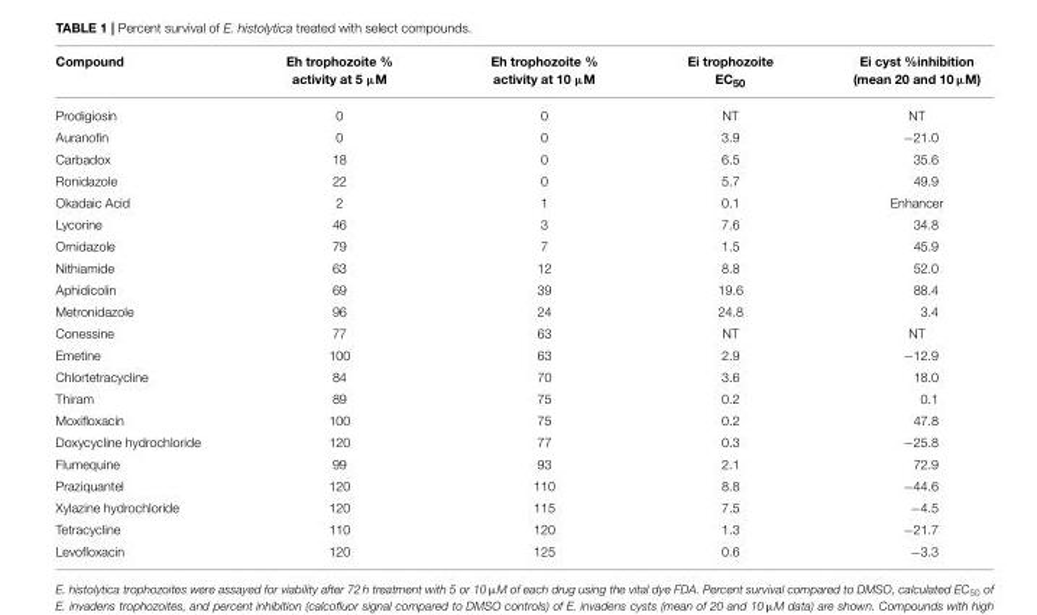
<table><thead><tr><td>Compound</td><td>Eh trophozoite % activity at 5 µM</td><td>Eh trophozoite % activity at 10 µM</td><td>Ei trophozoite EC<sub>50</sub></td><td>Ei cyst %inhibition (mean 20 and 10 µM)</td></tr></thead><tbody><tr><td>Prodigiosin</td><td>0</td><td>0</td><td>NT</td><td>NT</td></tr><tr><td>Auranofin</td><td>0</td><td>0</td><td>3.9</td><td>−21.0</td></tr><tr><td>Carbadox</td><td>18</td><td>0</td><td>6.5</td><td>35.6</td></tr><tr><td>Ronidazole</td><td>22</td><td>0</td><td>5.7</td><td>49.9</td></tr><tr><td>Okadaic Acid</td><td>2</td><td>1</td><td>0.1</td><td>Enhancer</td></tr><tr><td>Lycorine</td><td>46</td><td>3</td><td>7.6</td><td>34.8</td></tr><tr><td>Ornidazole</td><td>79</td><td>7</td><td>1.5</td><td>45.9</td></tr><tr><td>Nithiamide</td><td>63</td><td>12</td><td>8.8</td><td>52.0</td></tr><tr><td>Aphidicolin</td><td>69</td><td>39</td><td>19.6</td><td>88.4</td></tr><tr><td>Metronidazole</td><td>96</td><td>24</td><td>24.8</td><td>3.4</td></tr><tr><td>Conessine</td><td>77</td><td>63</td><td>NT</td><td>NT</td></tr><tr><td>Emetine</td><td>100</td><td>63</td><td>2.9</td><td>−12.9</td></tr><tr><td>Chlortetracycline</td><td>84</td><td>70</td><td>3.6</td><td>18.0</td></tr><tr><td>Thiram</td><td>89</td><td>75</td><td>0.2</td><td>0.1</td></tr><tr><td>Moxifloxacin</td><td>100</td><td>75</td><td>0.2</td><td>47.8</td></tr><tr><td>Doxycycline hydrochloride</td><td>120</td><td>77</td><td>0.3</td><td>−25.8</td></tr><tr><td>Flumequine</td><td>99</td><td>93</td><td>2.1</td><td>72.9</td></tr><tr><td>Praziquantel</td><td>120</td><td>110</td><td>8.8</td><td>−44.6</td></tr><tr><td>Xylazine hydrochloride</td><td>120</td><td>115</td><td>7.5</td><td>−4.5</td></tr><tr><td>Tetracycline</td><td>110</td><td>120</td><td>1.3</td><td>−21.7</td></tr><tr><td>Levofloxacin</td><td>120</td><td>125</td><td>0.6</td><td>−3.3</td></tr></tbody></table>